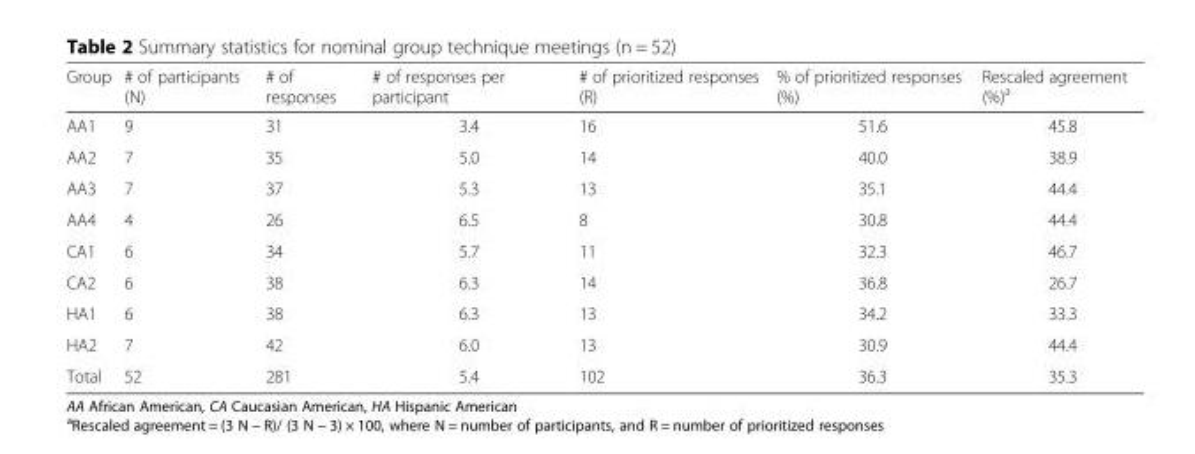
<table><thead><tr><td>Group</td><td># of participants (N)</td><td># of responses</td><td># of responses per participant</td><td># of prioritized responses (R)</td><td>% of prioritized responses (%)</td><td>Rescaled agreement (%)<sup>a</sup></td></tr></thead><tbody><tr><td>AA1</td><td>9</td><td>31</td><td>3.4</td><td>16</td><td>51.6</td><td>45.8</td></tr><tr><td>AA2</td><td>7</td><td>35</td><td>5.0</td><td>14</td><td>40.0</td><td>38.9</td></tr><tr><td>AA3</td><td>7</td><td>37</td><td>5.3</td><td>13</td><td>35.1</td><td>44.4</td></tr><tr><td>AA4</td><td>4</td><td>26</td><td>6.5</td><td>8</td><td>30.8</td><td>44.4</td></tr><tr><td>CA1</td><td>6</td><td>34</td><td>5.7</td><td>11</td><td>32.3</td><td>46.7</td></tr><tr><td>CA2</td><td>6</td><td>38</td><td>6.3</td><td>14</td><td>36.8</td><td>26.7</td></tr><tr><td>HA1</td><td>6</td><td>38</td><td>6.3</td><td>13</td><td>34.2</td><td>33.3</td></tr><tr><td>HA2</td><td>7</td><td>42</td><td>6.0</td><td>13</td><td>30.9</td><td>44.4</td></tr><tr><td>Total</td><td>52</td><td>281</td><td>5.4</td><td>102</td><td>36.3</td><td>35.3</td></tr></tbody></table>